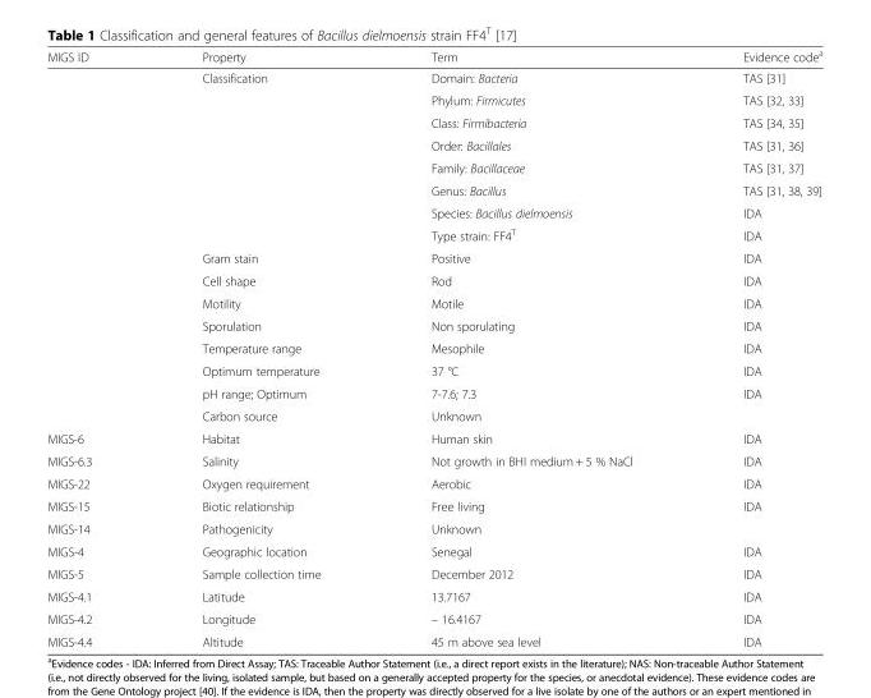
<table><thead><tr><td>MIGS ID</td><td>Property</td><td>Term</td><td>Evidence code<sup>a</sup></td></tr></thead><tbody><tr><td></td><td>Classification</td><td>Domain: Bacteria</td><td>TAS [31]</td></tr><tr><td></td><td></td><td>Phylum: Firmicutes</td><td>TAS [32, 33]</td></tr><tr><td></td><td></td><td>Class: Firmibacteria</td><td>TAS [34, 35]</td></tr><tr><td></td><td></td><td>Order: Bacillales</td><td>TAS [31, 36]</td></tr><tr><td></td><td></td><td>Family: Bacillaceae</td><td>TAS [31, 37]</td></tr><tr><td></td><td></td><td>Genus: Bacillus</td><td>TAS [31, 38, 39]</td></tr><tr><td></td><td></td><td>Species: Bacillus dielmoensis</td><td>IDA</td></tr><tr><td></td><td></td><td>Type strain: FF4<sup>T</sup></td><td>IDA</td></tr><tr><td></td><td>Gram stain</td><td>Positive</td><td>IDA</td></tr><tr><td></td><td>Cell shape</td><td>Rod</td><td>IDA</td></tr><tr><td></td><td>Motility</td><td>Motile</td><td>IDA</td></tr><tr><td></td><td>Sporulation</td><td>Non sporulating</td><td>IDA</td></tr><tr><td></td><td>Temperature range</td><td>Mesophile</td><td>IDA</td></tr><tr><td></td><td>Optimum temperature</td><td>37 °C</td><td>IDA</td></tr><tr><td></td><td>pH range; Optimum</td><td>7-7.6; 7.3</td><td>IDA</td></tr><tr><td></td><td>Carbon source</td><td>Unknown</td><td></td></tr><tr><td>MIGS-6</td><td>Habitat</td><td>Human skin</td><td>IDA</td></tr><tr><td>MIGS-6.3</td><td>Salinity</td><td>Not growth in BHI medium + 5 % NaCl</td><td>IDA</td></tr><tr><td>MIGS-22</td><td>Oxygen requirement</td><td>Aerobic</td><td>IDA</td></tr><tr><td>MIGS-15</td><td>Biotic relationship</td><td>Free living</td><td>IDA</td></tr><tr><td>MIGS-14</td><td>Pathogenicity</td><td>Unknown</td><td></td></tr><tr><td>MIGS-4</td><td>Geographic location</td><td>Senegal</td><td>IDA</td></tr><tr><td>MIGS-5</td><td>Sample collection time</td><td>December 2012</td><td>IDA</td></tr><tr><td>MIGS-4.1</td><td>Latitude</td><td>13.7167</td><td>IDA</td></tr><tr><td>MIGS-4.2</td><td>Longitude</td><td>– 16.4167</td><td>IDA</td></tr><tr><td>MIGS-4.4</td><td>Altitude</td><td>45 m above sea level</td><td>IDA</td></tr></tbody></table>